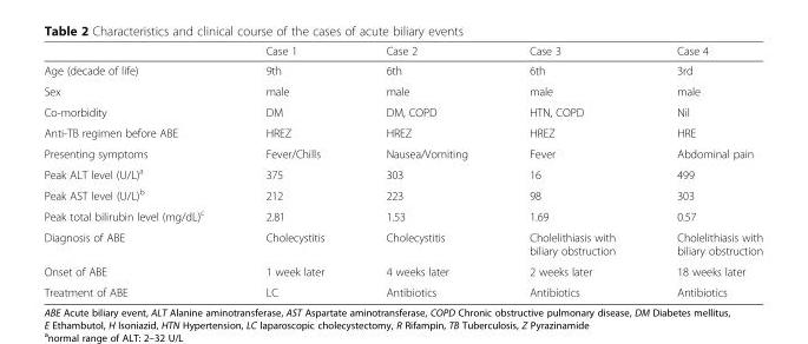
<table><thead><tr><td></td><td>Case 1</td><td>Case 2</td><td>Case 3</td><td>Case 4</td></tr></thead><tbody><tr><td>Age (decade of life)</td><td>9th</td><td>6th</td><td>6th</td><td>3rd</td></tr><tr><td>Sex</td><td>male</td><td>male</td><td>male</td><td>male</td></tr><tr><td>Co-morbidity</td><td>DM</td><td>DM, COPD</td><td>HTN, COPD</td><td>Nil</td></tr><tr><td>Anti-TB regimen before ABE</td><td>HREZ</td><td>HREZ</td><td>HREZ</td><td>HRE</td></tr><tr><td>Presenting symptoms</td><td>Fever/Chills</td><td>Nausea/Vomiting</td><td>Fever</td><td>Abdominal pain</td></tr><tr><td>Peak ALT level (U/L)<sup>a</sup></td><td>375</td><td>303</td><td>16</td><td>499</td></tr><tr><td>Peak AST level (U/L)<sup>b</sup></td><td>212</td><td>223</td><td>98</td><td>303</td></tr><tr><td>Peak total bilirubin level (mg/dL)<sup>c</sup></td><td>2.81</td><td>1.53</td><td>1.69</td><td>0.57</td></tr><tr><td>Diagnosis of ABE</td><td>Cholecystitis</td><td>Cholecystitis</td><td>Cholelithiasis with biliary obstruction</td><td>Cholelithiasis with biliary obstruction</td></tr><tr><td>Onset of ABE</td><td>1 week later</td><td>4 weeks later</td><td>2 weeks later</td><td>18 weeks later</td></tr><tr><td>Treatment of ABE</td><td>LC</td><td>Antibiotics</td><td>Antibiotics</td><td>Antibiotics</td></tr></tbody></table>